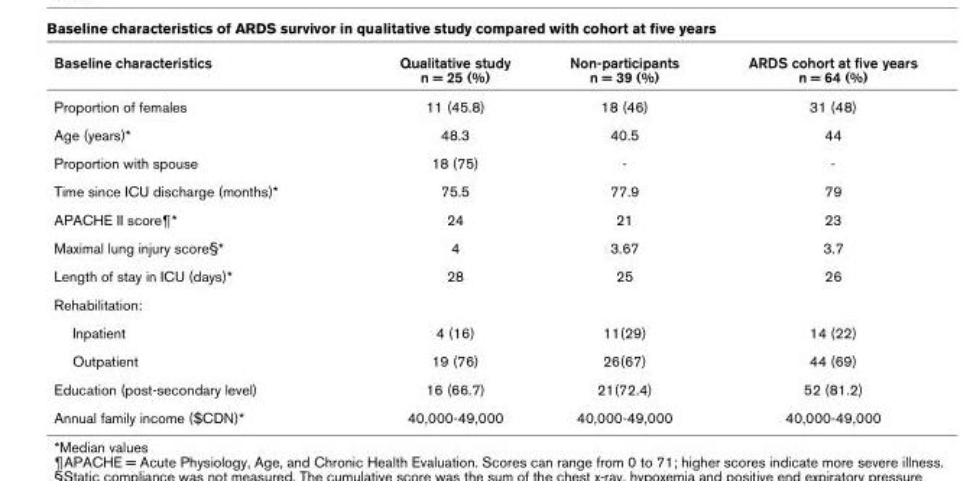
<table><thead><tr><td>Baseline characteristics</td><td>Qualitative study n = 25 (%)</td><td>Non-participants n = 39 (%)</td><td>ARDS cohort at five years n = 64 (%)</td></tr></thead><tbody><tr><td>Proportion of females</td><td>11 (45.8)</td><td>18 (46)</td><td>31 (48)</td></tr><tr><td>Age (years)*</td><td>48.3</td><td>40.5</td><td>44</td></tr><tr><td>Proportion with spouse</td><td>18 (75)</td><td>-</td><td>-</td></tr><tr><td>Time since ICU discharge (months)*</td><td>75.5</td><td>77.9</td><td>79</td></tr><tr><td>APACHE II score¶*</td><td>24</td><td>21</td><td>23</td></tr><tr><td>Maximal lung injury score§*</td><td>4</td><td>3.67</td><td>3.7</td></tr><tr><td>Length of stay in ICU (days)*</td><td>28</td><td>25</td><td>26</td></tr><tr><td colspan="4">Rehabilitation:</td></tr><tr><td>Inpatient</td><td>4 (16)</td><td>11(29)</td><td>14 (22)</td></tr><tr><td>Outpatient</td><td>19 (76)</td><td>26(67)</td><td>44 (69)</td></tr><tr><td>Education (post-secondary level)</td><td>16 (66.7)</td><td>21(72.4)</td><td>52 (81.2)</td></tr><tr><td>Annual family income ($CDN)*</td><td>40,000-49,000</td><td>40,000-49,000</td><td>40,000-49,000</td></tr></tbody></table>